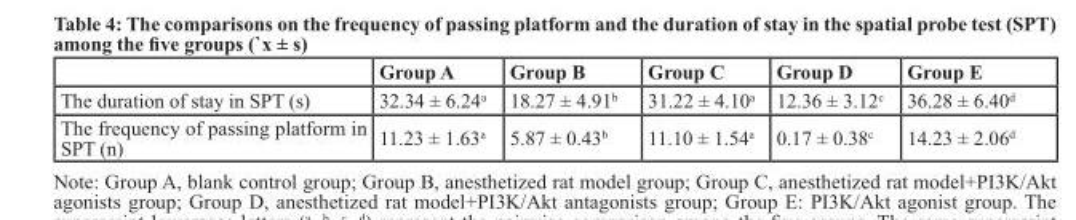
<table><thead><tr><td></td><td>Group A</td><td>Group B</td><td>Group C</td><td>Group D</td><td>Group E</td></tr></thead><tbody><tr><td>The duration of stay in SPT (s)</td><td>32.34 ± 6.24<sup>a</sup></td><td>18.27 ± 4.91<sup>b</sup></td><td>31.22 ± 4.10<sup>a</sup></td><td>12.36 ± 3.12<sup>c</sup></td><td>36.28 ± 6.40<sup>d</sup></td></tr><tr><td>The frequency of passing platform in SPT (n)</td><td>11.23 ± 1.63<sup>a</sup></td><td>5.87 ± 0.43<sup>b</sup></td><td>11.10 ± 1.54<sup>a</sup></td><td>0.17 ± 0.38<sup>c</sup></td><td>14.23 ± 2.06<sup>d</sup></td></tr></tbody></table>